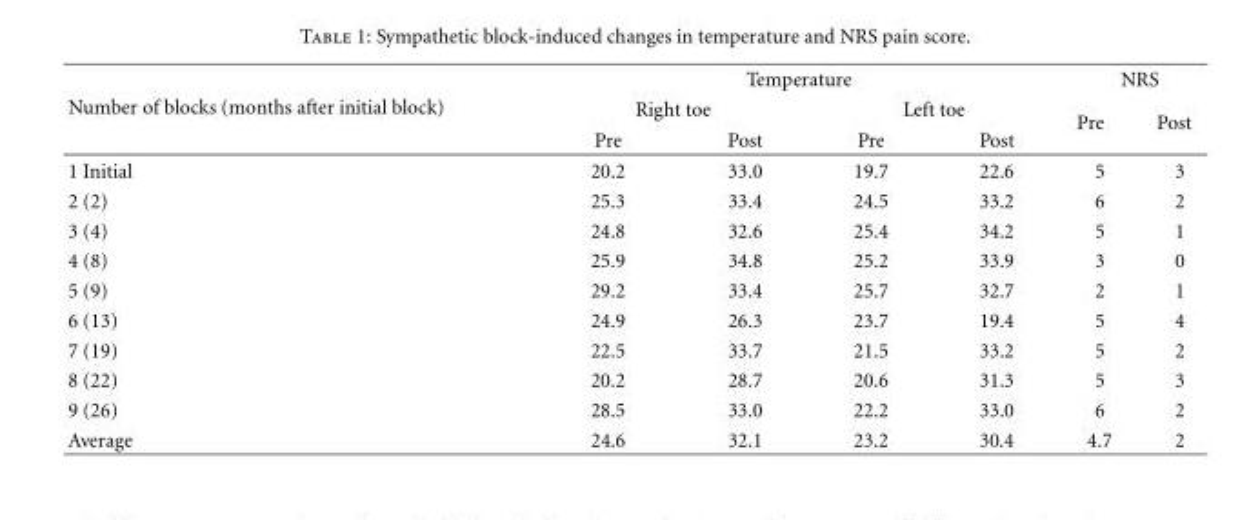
<table><thead><tr><td rowspan="3">Number of blocks (months after initial block)</td><td colspan="4">Temperature</td><td colspan="2">NRS</td></tr><tr><td colspan="2">Right toe</td><td colspan="2">Left toe</td><td rowspan="2">Pre</td><td rowspan="2">Post</td></tr><tr><td>Pre</td><td>Post</td><td>Pre</td><td>Post</td></tr></thead><tbody><tr><td>1 Initial</td><td>20.2</td><td>33.0</td><td>19.7</td><td>22.6</td><td>5</td><td>3</td></tr><tr><td>2 (2)</td><td>25.3</td><td>33.4</td><td>24.5</td><td>33.2</td><td>6</td><td>2</td></tr><tr><td>3 (4)</td><td>24.8</td><td>32.6</td><td>25.4</td><td>34.2</td><td>5</td><td>1</td></tr><tr><td>4 (8)</td><td>25.9</td><td>34.8</td><td>25.2</td><td>33.9</td><td>3</td><td>0</td></tr><tr><td>5 (9)</td><td>29.2</td><td>33.4</td><td>25.7</td><td>32.7</td><td>2</td><td>1</td></tr><tr><td>6 (13)</td><td>24.9</td><td>26.3</td><td>23.7</td><td>19.4</td><td>5</td><td>4</td></tr><tr><td>7 (19)</td><td>22.5</td><td>33.7</td><td>21.5</td><td>33.2</td><td>5</td><td>2</td></tr><tr><td>8 (22)</td><td>20.2</td><td>28.7</td><td>20.6</td><td>31.3</td><td>5</td><td>3</td></tr><tr><td>9 (26)</td><td>28.5</td><td>33.0</td><td>22.2</td><td>33.0</td><td>6</td><td>2</td></tr><tr><td>Average</td><td>24.6</td><td>32.1</td><td>23.2</td><td>30.4</td><td>4.7</td><td>2</td></tr></tbody></table>